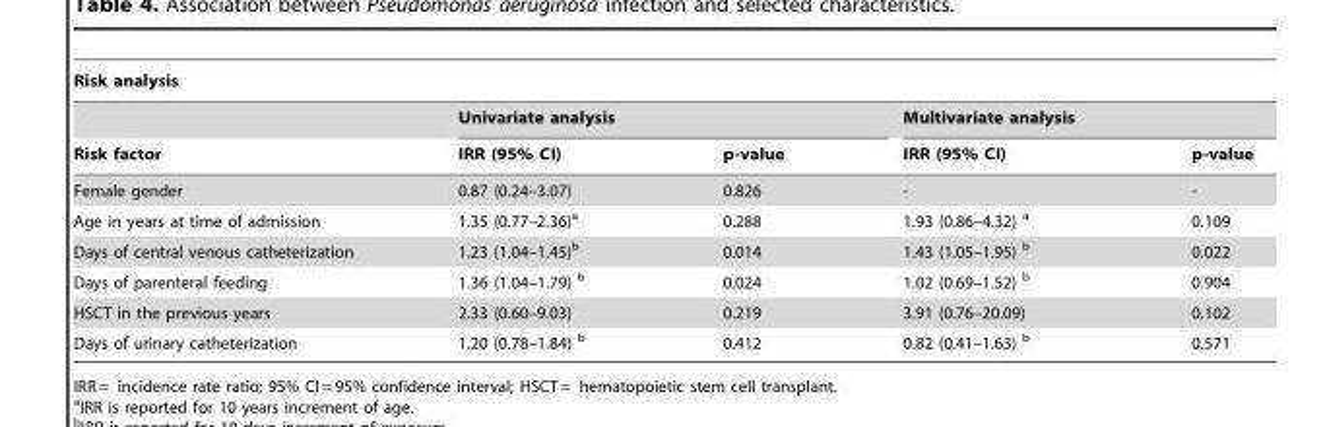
<table><thead><tr><td colspan="5">Risk analysis</td></tr><tr><td rowspan="2">Risk factor</td><td colspan="2">Univariate analysis</td><td colspan="2">Multivariate analysis</td></tr><tr><td>IRR (95% CI)</td><td>p-value</td><td>IRR (95% CI)</td><td>p-value</td></tr></thead><tbody><tr><td>Female gender</td><td>0.87 (0.24–3.07)</td><td>0.826</td><td>-</td><td>-</td></tr><tr><td>Age in years at time of admission</td><td>1.35 (0.77–2.36)<sup>a</sup></td><td>0.288</td><td>1.93 (0.86–4.32) a</td><td>0.109</td></tr><tr><td>Days of central venous catheterization</td><td>1.23 (1.04–1.45)<sup>b</sup></td><td>0.014</td><td>1.43 (1.05–1.95) b</td><td>0.022</td></tr><tr><td>Days of parenteral feeding</td><td>1.36 (1.04–1.79) b</td><td>0.024</td><td>1.02 (0.69–1.52) b</td><td>0.904</td></tr><tr><td>HSCT in the previous years</td><td>2.33 (0.60–9.03)</td><td>0.219</td><td>3.91 (0.76–20.09)</td><td>0.102</td></tr><tr><td>Days of urinary catheterization</td><td>1.20 (0.78–1.84) b</td><td>0.412</td><td>0.82 (0.41–1.63) b</td><td>0.571</td></tr></tbody></table>